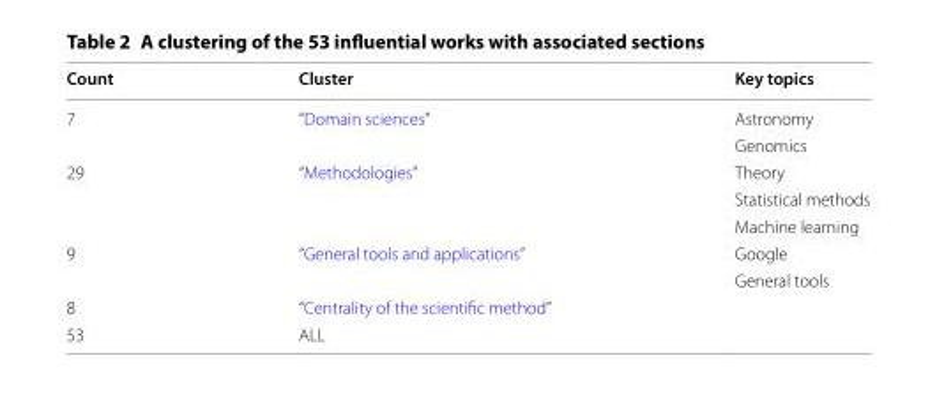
<table><thead><tr><td>Count</td><td>Cluster</td><td>Key topics</td></tr></thead><tbody><tr><td rowspan="2">7</td><td rowspan="2">“Domain sciences”</td><td>Astronomy</td></tr><tr><td>Genomics</td></tr><tr><td rowspan="3">29</td><td rowspan="3">“Methodologies”</td><td>Theory</td></tr><tr><td>Statistical methods</td></tr><tr><td>Machine learning</td></tr><tr><td rowspan="2">9</td><td rowspan="2">“General tools and applications”</td><td>Google</td></tr><tr><td>General tools</td></tr><tr><td>8</td><td>“Centrality of the scientific method”</td><td></td></tr><tr><td>53</td><td>ALL</td><td></td></tr></tbody></table>